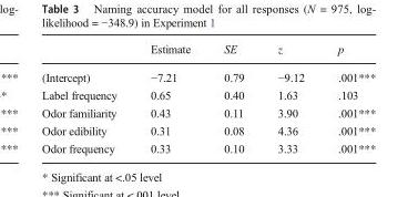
<table><thead><tr><td></td><td>Estimate</td><td>SE</td><td>z</td><td>p</td></tr></thead><tbody><tr><td>(Intercept)</td><td>−7.21</td><td>0.79</td><td>−9.12</td><td>.001***</td></tr><tr><td>Label frequency</td><td>0.65</td><td>0.40</td><td>1.63</td><td>.103</td></tr><tr><td>Odor familiarity</td><td>0.43</td><td>0.11</td><td>3.90</td><td>.001***</td></tr><tr><td>Odor edibility</td><td>0.31</td><td>0.08</td><td>4.36</td><td>.001***</td></tr><tr><td>Odor frequency</td><td>0.33</td><td>0.10</td><td>3.33</td><td>.001***</td></tr></tbody></table>